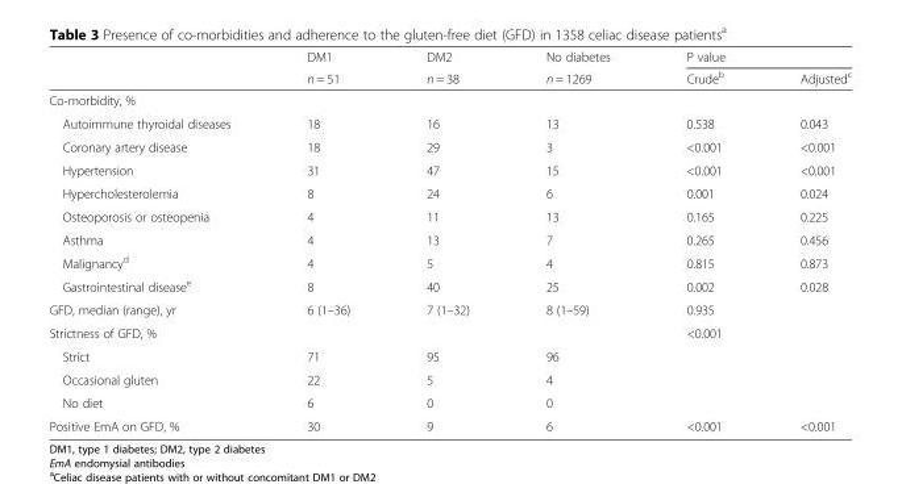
<table><thead><tr><td rowspan="2"></td><td rowspan="2">DM1 n = 51</td><td rowspan="2">DM2 n = 38</td><td rowspan="2">No diabetes n = 1269</td><td colspan="2">P value</td></tr><tr><td>Crude<sup>b</sup></td><td>Adjusted<sup>c</sup></td></tr></thead><tbody><tr><td colspan="6">Co-morbidity, %</td></tr><tr><td>Autoimmune thyroidal diseases</td><td>18</td><td>16</td><td>13</td><td>0.538</td><td>0.043</td></tr><tr><td>Coronary artery disease</td><td>18</td><td>29</td><td>3</td><td>&lt;0.001</td><td>&lt;0.001</td></tr><tr><td>Hypertension</td><td>31</td><td>47</td><td>15</td><td>&lt;0.001</td><td>&lt;0.001</td></tr><tr><td>Hypercholesterolemia</td><td>8</td><td>24</td><td>6</td><td>0.001</td><td>0.024</td></tr><tr><td>Osteoporosis or osteopenia</td><td>4</td><td>11</td><td>13</td><td>0.165</td><td>0.225</td></tr><tr><td>Asthma</td><td>4</td><td>13</td><td>7</td><td>0.265</td><td>0.456</td></tr><tr><td>Malignancy<sup>d</sup></td><td>4</td><td>5</td><td>4</td><td>0.815</td><td>0.873</td></tr><tr><td>Gastrointestinal disease<sup>e</sup></td><td>8</td><td>40</td><td>25</td><td>0.002</td><td>0.028</td></tr><tr><td>GFD, median (range), yr</td><td>6 (1–36)</td><td>7 (1–32)</td><td>8 (1–59)</td><td>0.935</td><td></td></tr><tr><td>Strictness of GFD, %</td><td></td><td></td><td></td><td>&lt;0.001</td><td></td></tr><tr><td>Strict</td><td>71</td><td>95</td><td>96</td><td></td><td></td></tr><tr><td>Occasional gluten</td><td>22</td><td>5</td><td>4</td><td></td><td></td></tr><tr><td>No diet</td><td>6</td><td>0</td><td>0</td><td></td><td></td></tr><tr><td>Positive EmA on GFD, %</td><td>30</td><td>9</td><td>6</td><td>&lt;0.001</td><td>&lt;0.001</td></tr></tbody></table>